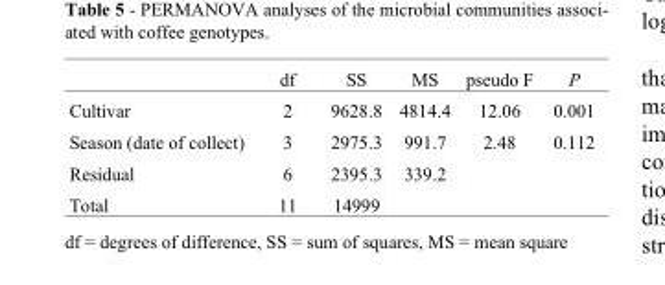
<table><thead><tr><td></td><td>df</td><td>SS</td><td>MS</td><td>pseudo F</td><td>P</td></tr></thead><tbody><tr><td>Cultivar</td><td>2</td><td>9628.8</td><td>4814.4</td><td>12.06</td><td>0.001</td></tr><tr><td>Season (date of collect)</td><td>3</td><td>2975.3</td><td>991.7</td><td>2.48</td><td>0.112</td></tr><tr><td>Residual</td><td>6</td><td>2395.3</td><td>339.2</td><td></td><td></td></tr><tr><td>Total</td><td>11</td><td>14999</td><td></td><td></td><td></td></tr></tbody></table>